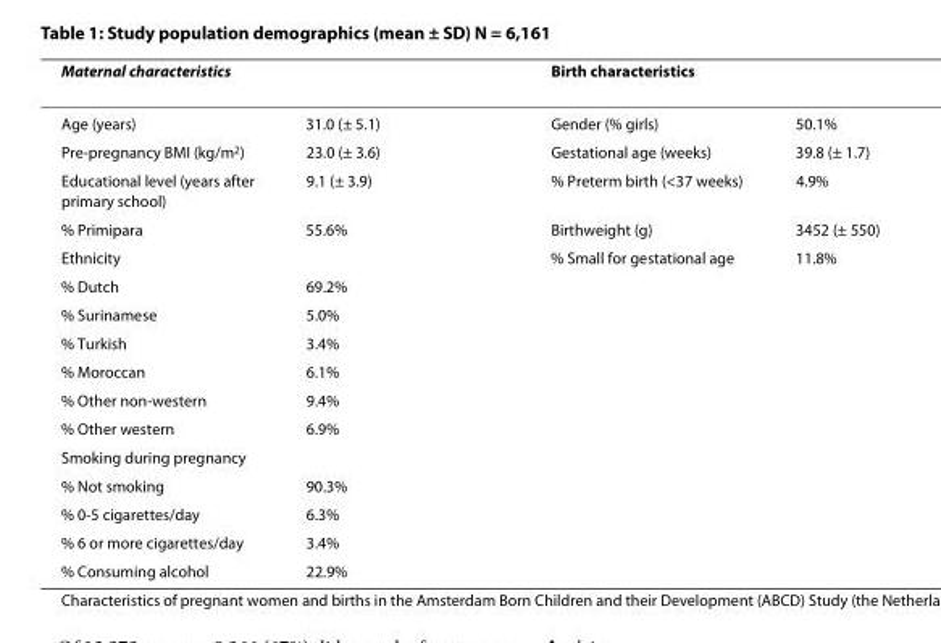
<table><thead><tr><td colspan="2">Maternal characteristics</td><td colspan="2">Birth characteristics</td></tr><tr><td>Age (years)</td><td>31.0 (± 5.1)</td><td>Gender (% girls)</td><td>50.1%</td></tr></thead><tbody><tr><td>Pre-pregnancy BMI (kg/m<sup>2</sup>)</td><td>23.0 (± 3.6)</td><td>Gestational age (weeks)</td><td>39.8 (± 1.7)</td></tr><tr><td>Educational level (years after primary school)</td><td>9.1 (± 3.9)</td><td>% Preterm birth (&lt;37 weeks)</td><td>4.9%</td></tr><tr><td>% Primipara</td><td>55.6%</td><td>Birthweight (g)</td><td>3452 (± 550)</td></tr><tr><td>Ethnicity</td><td></td><td>% Small for gestational age</td><td>11.8%</td></tr><tr><td>% Dutch</td><td>69.2%</td><td></td><td></td></tr><tr><td>% Surinamese</td><td>5.0%</td><td></td><td></td></tr><tr><td>% Turkish</td><td>3.4%</td><td></td><td></td></tr><tr><td>% Moroccan</td><td>6.1%</td><td></td><td></td></tr><tr><td>% Other non-western</td><td>9.4%</td><td></td><td></td></tr><tr><td>% Other western</td><td>6.9%</td><td></td><td></td></tr><tr><td colspan="4">Smoking during pregnancy</td></tr><tr><td>% Not smoking</td><td>90.3%</td><td></td><td></td></tr><tr><td>% 0-5 cigarettes/day</td><td>6.3%</td><td></td><td></td></tr><tr><td>% 6 or more cigarettes/day</td><td>3.4%</td><td></td><td></td></tr><tr><td>% Consuming alcohol</td><td>22.9%</td><td></td><td></td></tr></tbody></table>